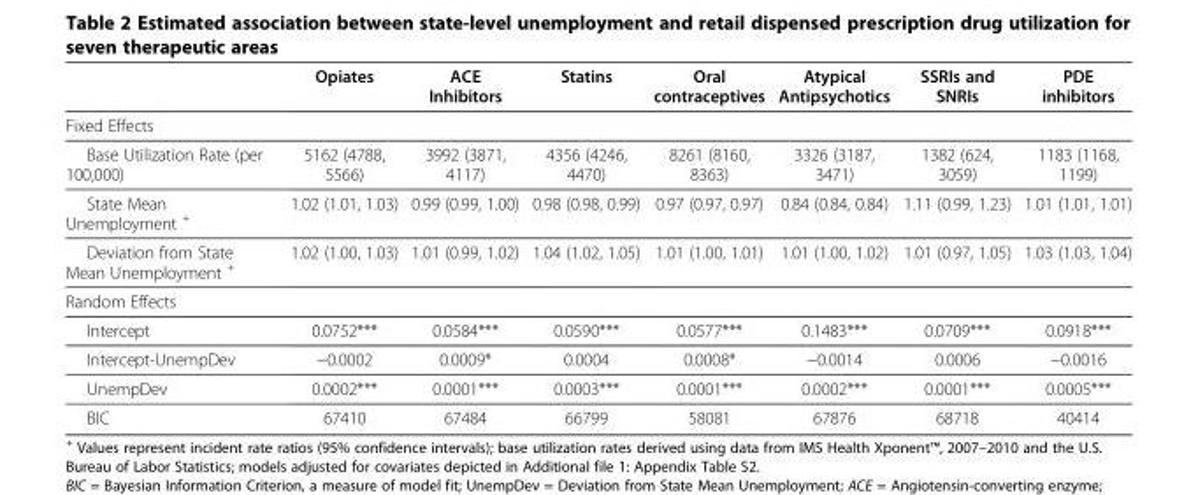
<table><thead><tr><td></td><td>Opiates</td><td>ACE Inhibitors</td><td>Statins</td><td>Oral contraceptives</td><td>Atypical Antipsychotics</td><td>SSRIs and SNRIs</td><td>PDE inhibitors</td></tr></thead><tbody><tr><td colspan="8">Fixed Effects</td></tr><tr><td>Base Utilization Rate (per 100,000)</td><td>5162 (4788, 5566)</td><td>3992 (3871, 4117)</td><td>4356 (4246, 4470)</td><td>8261 (8160, 8363)</td><td>3326 (3187, 3471)</td><td>1382 (624, 3059)</td><td>1183 (1168, 1199)</td></tr><tr><td>State Mean Unemployment <sup>+</sup></td><td>1.02 (1.01, 1.03)</td><td>0.99 (0.99, 1.00)</td><td>0.98 (0.98, 0.99)</td><td>0.97 (0.97, 0.97)</td><td>0.84 (0.84, 0.84)</td><td>1.11 (0.99, 1.23)</td><td>1.01 (1.01, 1.01)</td></tr><tr><td>Deviation from State Mean Unemployment <sup>+</sup></td><td>1.02 (1.00, 1.03)</td><td>1.01 (0.99, 1.02)</td><td>1.04 (1.02, 1.05)</td><td>1.01 (1.00, 1.01)</td><td>1.01 (1.00, 1.02)</td><td>1.01 (0.97, 1.05)</td><td>1.03 (1.03, 1.04)</td></tr><tr><td colspan="8">Random Effects</td></tr><tr><td>Intercept</td><td>0.0752***</td><td>0.0584***</td><td>0.0590***</td><td>0.0577***</td><td>0.1483***</td><td>0.0709***</td><td>0.0918***</td></tr><tr><td>Intercept-UnempDev</td><td>−0.0002</td><td>0.0009*</td><td>0.0004</td><td>0.0008*</td><td>−0.0014</td><td>0.0006</td><td>−0.0016</td></tr><tr><td>UnempDev</td><td>0.0002***</td><td>0.0001***</td><td>0.0003***</td><td>0.0001***</td><td>0.0002***</td><td>0.0001***</td><td>0.0005***</td></tr><tr><td>BIC</td><td>67410</td><td>67484</td><td>66799</td><td>58081</td><td>67876</td><td>68718</td><td>40414</td></tr></tbody></table>